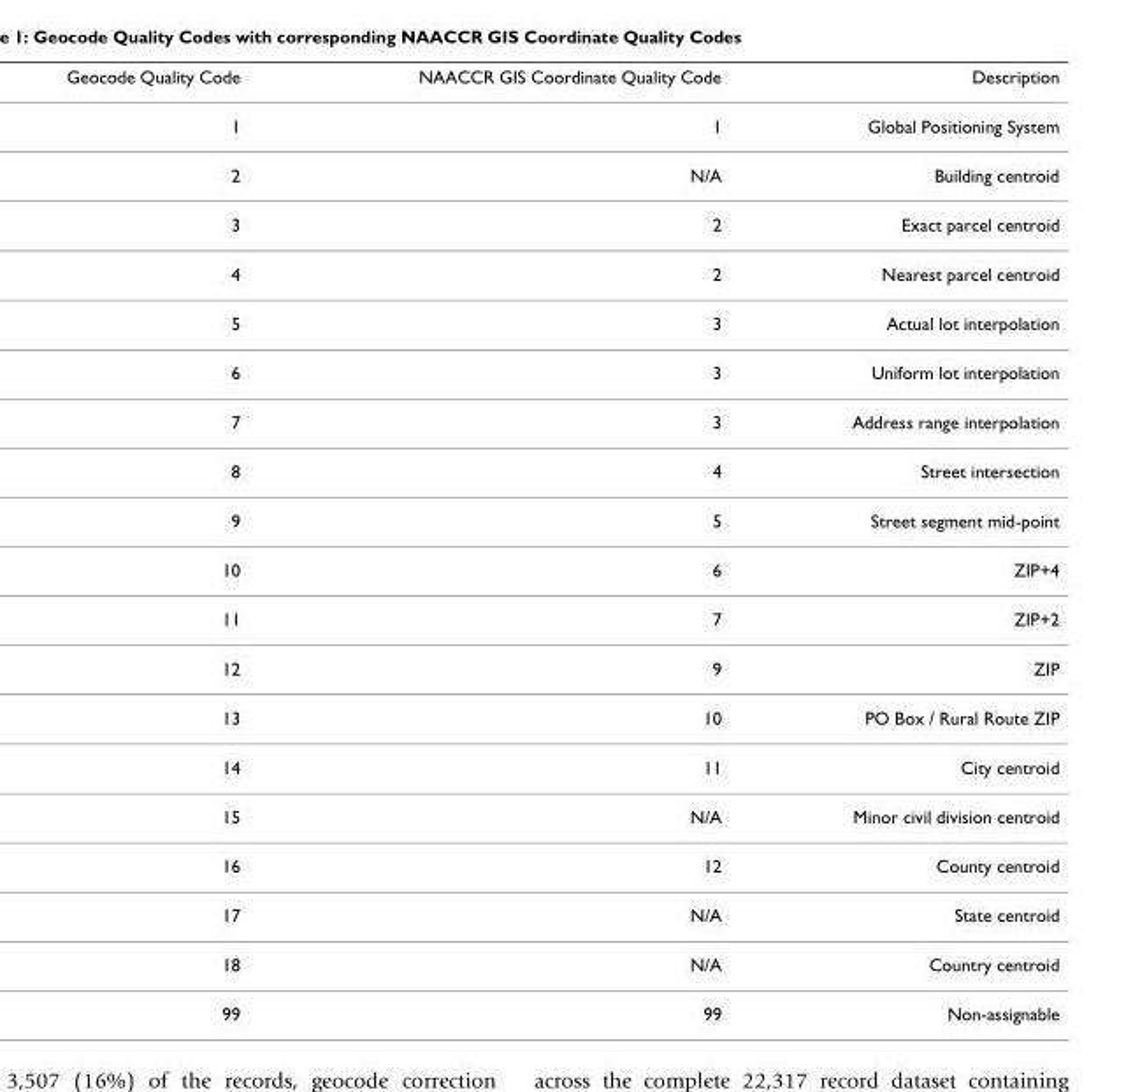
<table><thead><tr><td>Geocode Quality Code</td><td>NAACCR GIS Coordinate Quality Code</td><td>Description</td></tr></thead><tbody><tr><td>1</td><td>1</td><td>Global Positioning System</td></tr><tr><td>2</td><td>N/A</td><td>Building centroid</td></tr><tr><td>3</td><td>2</td><td>Exact parcel centroid</td></tr><tr><td>4</td><td>2</td><td>Nearest parcel centroid</td></tr><tr><td>5</td><td>3</td><td>Actual lot interpolation</td></tr><tr><td>6</td><td>3</td><td>Uniform lot interpolation</td></tr><tr><td>7</td><td>3</td><td>Address range interpolation</td></tr><tr><td>8</td><td>4</td><td>Street intersection</td></tr><tr><td>9</td><td>5</td><td>Street segment mid-point</td></tr><tr><td>10</td><td>6</td><td>ZIP+4</td></tr><tr><td>11</td><td>7</td><td>ZIP+2</td></tr><tr><td>12</td><td>9</td><td>ZIP</td></tr><tr><td>13</td><td>10</td><td>PO Box / Rural Route ZIP</td></tr><tr><td>14</td><td>11</td><td>City centroid</td></tr><tr><td>15</td><td>N/A</td><td>Minor civil division centroid</td></tr><tr><td>16</td><td>12</td><td>County centroid</td></tr><tr><td>17</td><td>N/A</td><td>State centroid</td></tr><tr><td>18</td><td>N/A</td><td>Country centroid</td></tr><tr><td>99</td><td>99</td><td>Non-assignable</td></tr></tbody></table>